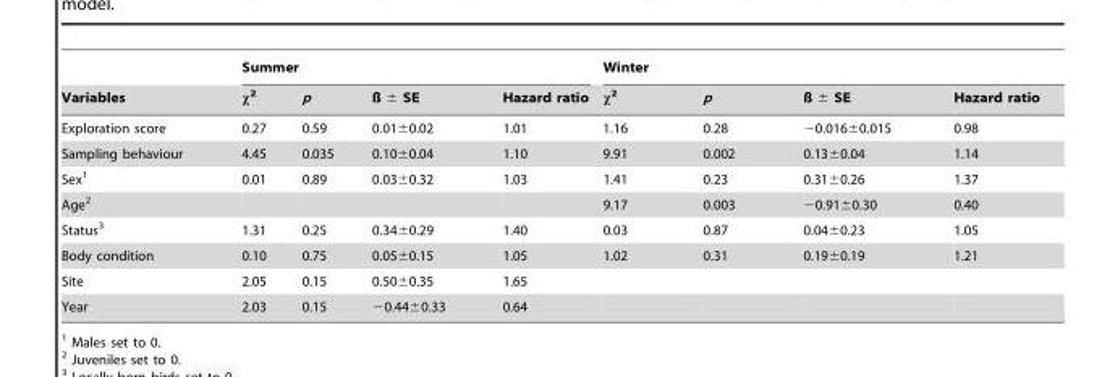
<table><thead><tr><td rowspan="2">Variables</td><td colspan="4">Summer</td><td colspan="4">Winter</td></tr><tr><td>χ<sup>2</sup></td><td>p</td><td>ß ± SE</td><td>Hazard ratio</td><td>χ<sup>2</sup></td><td>p</td><td>ß ± SE</td><td>Hazard ratio</td></tr></thead><tbody><tr><td>Exploration score</td><td>0.27</td><td>0.59</td><td>0.01±0.02</td><td>1.01</td><td>1.16</td><td>0.28</td><td>−0.016±0.015</td><td>0.98</td></tr><tr><td>Sampling behaviour</td><td>4.45</td><td>0.035</td><td>0.10±0.04</td><td>1.10</td><td>9.91</td><td>0.002</td><td>0.13±0.04</td><td>1.14</td></tr><tr><td>Sex<sup>1</sup></td><td>0.01</td><td>0.89</td><td>0.03±0.32</td><td>1.03</td><td>1.41</td><td>0.23</td><td>0.31±0.26</td><td>1.37</td></tr><tr><td>Age<sup>2</sup></td><td></td><td></td><td></td><td></td><td>9.17</td><td>0.003</td><td>−0.91±0.30</td><td>0.40</td></tr><tr><td>Status<sup>3</sup></td><td>1.31</td><td>0.25</td><td>0.34±0.29</td><td>1.40</td><td>0.03</td><td>0.87</td><td>0.04±0.23</td><td>1.05</td></tr><tr><td>Body condition</td><td>0.10</td><td>0.75</td><td>0.05±0.15</td><td>1.05</td><td>1.02</td><td>0.31</td><td>0.19±0.19</td><td>1.21</td></tr><tr><td>Site</td><td>2.05</td><td>0.15</td><td>0.50±0.35</td><td>1.65</td><td></td><td></td><td></td><td></td></tr><tr><td>Year</td><td>2.03</td><td>0.15</td><td>−0.44±0.33</td><td>0.64</td><td></td><td></td><td></td><td></td></tr></tbody></table>